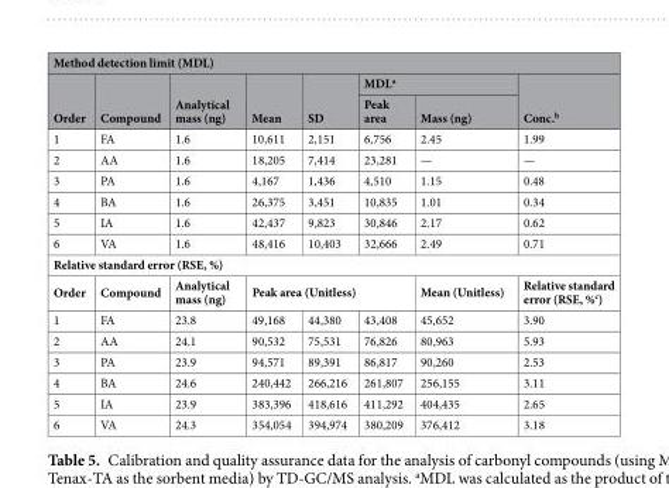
<table><thead><tr><td colspan="8">Method detection limit (MDL)</td></tr><tr><td rowspan="2">Order</td><td rowspan="2">Compound</td><td rowspan="2">Analytical mass (ng)</td><td rowspan="2">Mean</td><td rowspan="2">SD</td><td colspan="2">MDL<sup>a</sup></td><td rowspan="2">Conc.<sup>b</sup></td></tr><tr><td>Peak area</td><td>Mass (ng)</td></tr></thead><tbody><tr><td>1</td><td>FA</td><td>1.6</td><td>10,611</td><td>2,151</td><td>6,756</td><td>2.45</td><td>1.99</td></tr><tr><td>2</td><td>AA</td><td>1.6</td><td>18,205</td><td>7,414</td><td>23,281</td><td>—</td><td>—</td></tr><tr><td>3</td><td>PA</td><td>1.6</td><td>4,167</td><td>1,436</td><td>4,510</td><td>1.15</td><td>0.48</td></tr><tr><td>4</td><td>BA</td><td>1.6</td><td>26,375</td><td>3,451</td><td>10,835</td><td>1.01</td><td>0.34</td></tr><tr><td>5</td><td>IA</td><td>1.6</td><td>42,437</td><td>9,823</td><td>30,846</td><td>2.17</td><td>0.62</td></tr><tr><td>6</td><td>VA</td><td>1.6</td><td>48,416</td><td>10,403</td><td>32,666</td><td>2.49</td><td>0.71</td></tr><tr><td colspan="8">Relative standard error (RSE, %)</td></tr><tr><td>Order</td><td>Compound</td><td>Analytical mass (ng)</td><td colspan="3">Peak area (Unitless)</td><td>Mean (Unitless)</td><td>Relative standard error (RSE, %<sup>c</sup>)</td></tr><tr><td>1</td><td>FA</td><td>23.8</td><td>49,168</td><td>44,380</td><td>43,408</td><td>45,652</td><td>3.90</td></tr><tr><td>2</td><td>AA</td><td>24.1</td><td>90,532</td><td>75,531</td><td>76,826</td><td>80,963</td><td>5.93</td></tr><tr><td>3</td><td>PA</td><td>23.9</td><td>94,571</td><td>89,391</td><td>86,817</td><td>90,260</td><td>2.53</td></tr><tr><td>4</td><td>BA</td><td>24.6</td><td>240,442</td><td>266,216</td><td>261,807</td><td>256,155</td><td>3.11</td></tr><tr><td>5</td><td>IA</td><td>23.9</td><td>383,396</td><td>418,616</td><td>411,292</td><td>404,435</td><td>2.65</td></tr><tr><td>6</td><td>VA</td><td>24.3</td><td>354,054</td><td>394,974</td><td>380,209</td><td>376,412</td><td>3.18</td></tr></tbody></table>